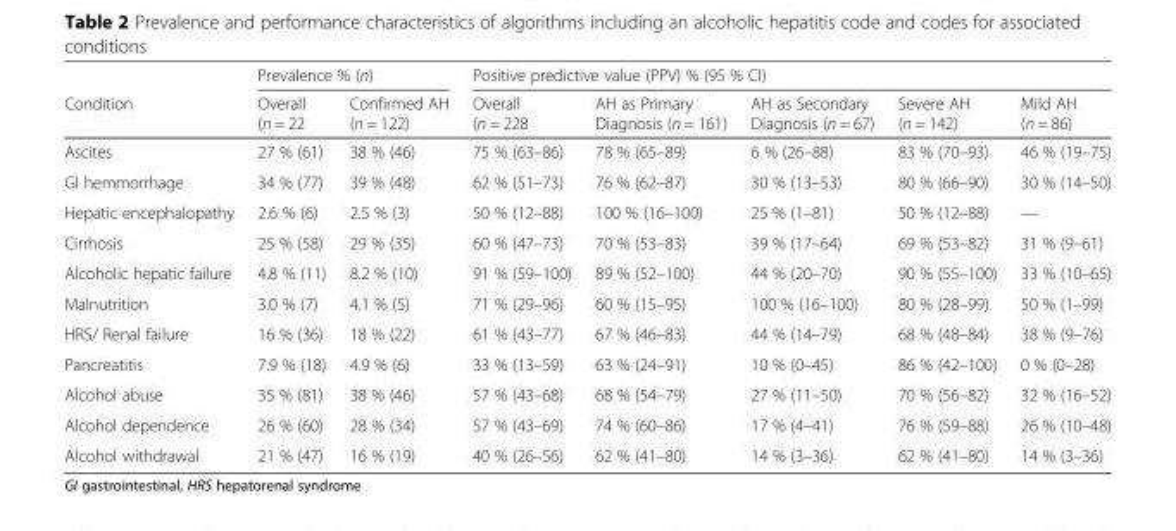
<table><thead><tr><td rowspan="2">Condition</td><td colspan="2">Prevalence % (n)</td><td colspan="5">Positive predictive value (PPV) % (95 % CI)</td></tr><tr><td>Overall (n = 22</td><td>Confirmed AH (n = 122)</td><td>Overall (n = 228</td><td>AH as Primary Diagnosis (n = 161)</td><td>AH as Secondary Diagnosis (n = 67)</td><td>Severe AH (n = 142)</td><td>Mild AH (n = 86)</td></tr></thead><tbody><tr><td>Ascites</td><td>27 % (61)</td><td>38 % (46)</td><td>75 % (63–86)</td><td>78 % (65–89)</td><td>6 % (26–88)</td><td>83 % (70–93)</td><td>46 % (19–75)</td></tr><tr><td>GI hemmorrhage</td><td>34 % (77)</td><td>39 % (48)</td><td>62 % (51–73)</td><td>76 % (62–87)</td><td>30 % (13–53)</td><td>80 % (66–90)</td><td>30 % (14–50)</td></tr><tr><td>Hepatic encephalopathy</td><td>2.6 % (6)</td><td>2.5 % (3)</td><td>50 % (12–88)</td><td>100 % (16–100)</td><td>25 % (1–81)</td><td>50 % (12–88)</td><td>—</td></tr><tr><td>Cirrhosis</td><td>25 % (58)</td><td>29 % (35)</td><td>60 % (47–73)</td><td>70 % (53–83)</td><td>39 % (17–64)</td><td>69 % (53–82)</td><td>31 % (9–61)</td></tr><tr><td>Alcoholic hepatic failure</td><td>4.8 % (11)</td><td>8.2 % (10)</td><td>91 % (59–100)</td><td>89 % (52–100)</td><td>44 % (20–70)</td><td>90 % (55–100)</td><td>33 % (10–65)</td></tr><tr><td>Malnutrition</td><td>3.0 % (7)</td><td>4.1 % (5)</td><td>71 % (29–96)</td><td>60 % (15–95)</td><td>100 % (16–100)</td><td>80 % (28–99)</td><td>50 % (1–99)</td></tr><tr><td>HRS/ Renal failure</td><td>16 % (36)</td><td>18 % (22)</td><td>61 % (43–77)</td><td>67 % (46–83)</td><td>44 % (14–79)</td><td>68 % (48–84)</td><td>38 % (9–76)</td></tr><tr><td>Pancreatitis</td><td>7.9 % (18)</td><td>4.9 % (6)</td><td>33 % (13–59)</td><td>63 % (24–91)</td><td>10 % (0–45)</td><td>86 % (42–100)</td><td>0 % (0–28)</td></tr><tr><td>Alcohol abuse</td><td>35 % (81)</td><td>38 % (46)</td><td>57 % (43–68)</td><td>68 % (54–79)</td><td>27 % (11–50)</td><td>70 % (56–82)</td><td>32 % (16–52)</td></tr><tr><td>Alcohol dependence</td><td>26 % (60)</td><td>28 % (34)</td><td>57 % (43–69)</td><td>74 % (60–86)</td><td>17 % (4–41)</td><td>76 % (59–88)</td><td>26 % (10–48)</td></tr><tr><td>Alcohol withdrawal</td><td>21 % (47)</td><td>16 % (19)</td><td>40 % (26–56)</td><td>62 % (41–80)</td><td>14 % (3–36)</td><td>62 % (41–80)</td><td>14 % (3–36)</td></tr></tbody></table>